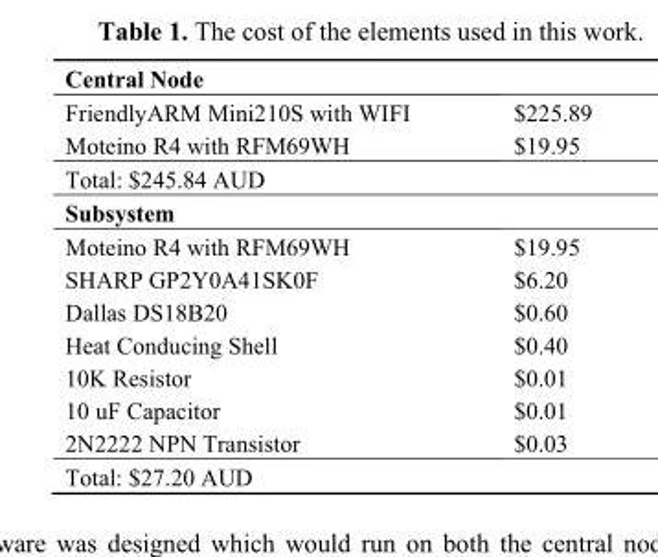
<table><thead><tr><td colspan="2">Central Node</td></tr><tr><td>FriendlyARM Mini210S with WIFI</td><td>$225.89</td></tr></thead><tbody><tr><td>Moteino R4 with RFM69WH</td><td>$19.95</td></tr><tr><td colspan="2">Total: $245.84 AUD</td></tr><tr><td colspan="2">Subsystem</td></tr><tr><td>Moteino R4 with RFM69WH</td><td>$19.95</td></tr><tr><td>SHARP GP2Y0A41SK0F</td><td>$6.20</td></tr><tr><td>Dallas DS18B20</td><td>$0.60</td></tr><tr><td>Heat Conducing Shell</td><td>$0.40</td></tr><tr><td>10K Resistor</td><td>$0.01</td></tr><tr><td>10 uF Capacitor</td><td>$0.01</td></tr><tr><td>2N2222 NPN Transistor</td><td>$0.03</td></tr><tr><td colspan="2">Total: $27.20 AUD</td></tr></tbody></table>